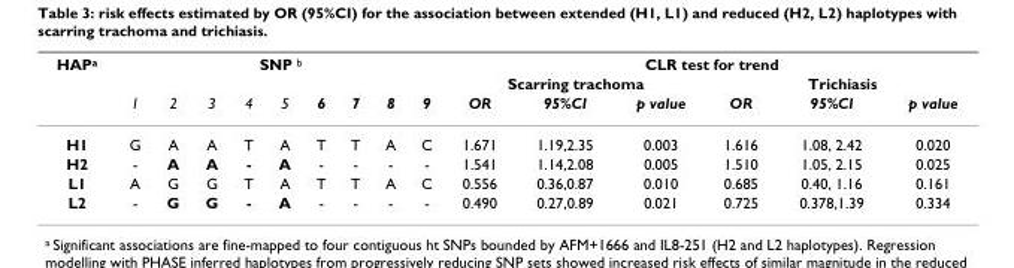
<table><thead><tr><td rowspan="3">HAP<sup>a</sup></td><td colspan="9">SNP <sup>b</sup></td><td colspan="6">CLR test for trend</td></tr><tr><td rowspan="2">1</td><td rowspan="2">2</td><td rowspan="2">3</td><td rowspan="2">4</td><td rowspan="2">5</td><td rowspan="2">6</td><td rowspan="2">7</td><td rowspan="2">8</td><td rowspan="2">9</td><td colspan="3">Scarring trachoma</td><td colspan="3">Trichiasis</td></tr><tr><td>OR</td><td>95%CI</td><td>p value</td><td>OR</td><td>95%CI</td><td>p value</td></tr></thead><tbody><tr><td>H1</td><td>G</td><td>A</td><td>A</td><td>T</td><td>A</td><td>T</td><td>T</td><td>A</td><td>C</td><td>1.671</td><td>1.19,2.35</td><td>0.003</td><td>1.616</td><td>1.08, 2.42</td><td>0.020</td></tr><tr><td>H2</td><td>-</td><td>A</td><td>A</td><td>-</td><td>A</td><td>-</td><td>-</td><td>-</td><td>-</td><td>1.541</td><td>1.14,2.08</td><td>0.005</td><td>1.510</td><td>1.05, 2.15</td><td>0.025</td></tr><tr><td>L1</td><td>A</td><td>G</td><td>G</td><td>T</td><td>A</td><td>T</td><td>T</td><td>A</td><td>C</td><td>0.556</td><td>0.36,0.87</td><td>0.010</td><td>0.685</td><td>0.40, 1.16</td><td>0.161</td></tr><tr><td>L2</td><td>-</td><td>G</td><td>G</td><td>-</td><td>A</td><td>-</td><td>-</td><td>-</td><td>-</td><td>0.490</td><td>0.27,0.89</td><td>0.021</td><td>0.725</td><td>0.378,1.39</td><td>0.334</td></tr></tbody></table>